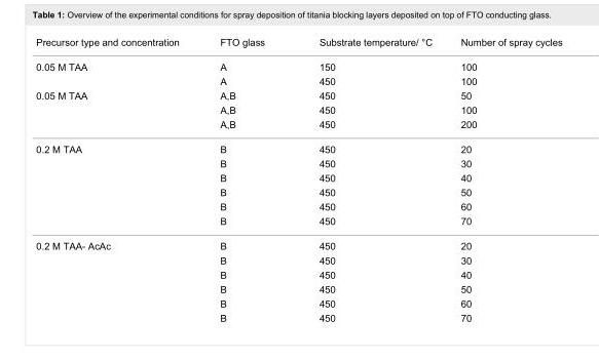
<table><tbody><tr><td>Precursor type and concentration</td><td>FTO glass</td><td>Substrate temperature/ °C</td><td>Number of spray cycles</td></tr><tr><td rowspan="2">0.05 M TAA</td><td>A</td><td>150</td><td>100</td></tr><tr><td>A</td><td>450</td><td>100</td></tr><tr><td rowspan="3">0.05 M TAA</td><td>A,B</td><td>450</td><td>50</td></tr><tr><td>A,B</td><td>450</td><td>100</td></tr><tr><td>A,B</td><td>450</td><td>200</td></tr><tr><td rowspan="6">0.2 M TAA</td><td>B</td><td>450</td><td>20</td></tr><tr><td>B</td><td>450</td><td>30</td></tr><tr><td>B</td><td>450</td><td>40</td></tr><tr><td>B</td><td>450</td><td>50</td></tr><tr><td>B</td><td>450</td><td>60</td></tr><tr><td>B</td><td>450</td><td>70</td></tr><tr><td rowspan="6">0.2 M TAA- AcAc</td><td>B</td><td>450</td><td>20</td></tr><tr><td>B</td><td>450</td><td>30</td></tr><tr><td>B</td><td>450</td><td>40</td></tr><tr><td>B</td><td>450</td><td>50</td></tr><tr><td>B</td><td>450</td><td>60</td></tr><tr><td>B</td><td>450</td><td>70</td></tr></tbody></table>